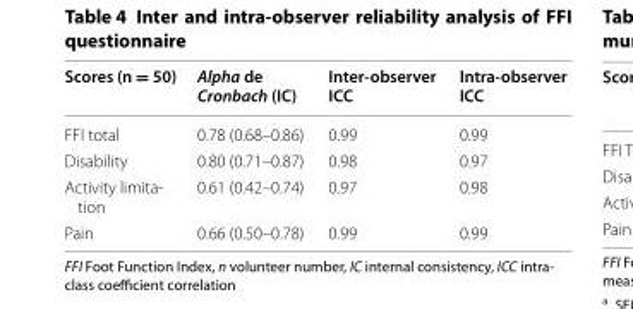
<table><thead><tr><td>Scores (n = 50)</td><td>Alpha de Cronbach (IC)</td><td>Inter-observer ICC</td><td>Intra-observer ICC</td></tr></thead><tbody><tr><td>FFI total</td><td>0.78 (0.68–0.86)</td><td>0.99</td><td>0.99</td></tr><tr><td>Disability</td><td>0.80 (0.71–0.87)</td><td>0.98</td><td>0.97</td></tr><tr><td>Activity limita‑ tion</td><td>0.61 (0.42–0.74)</td><td>0.97</td><td>0.98</td></tr><tr><td>Pain</td><td>0.66 (0.50–0.78)</td><td>0.99</td><td>0.99</td></tr></tbody></table>